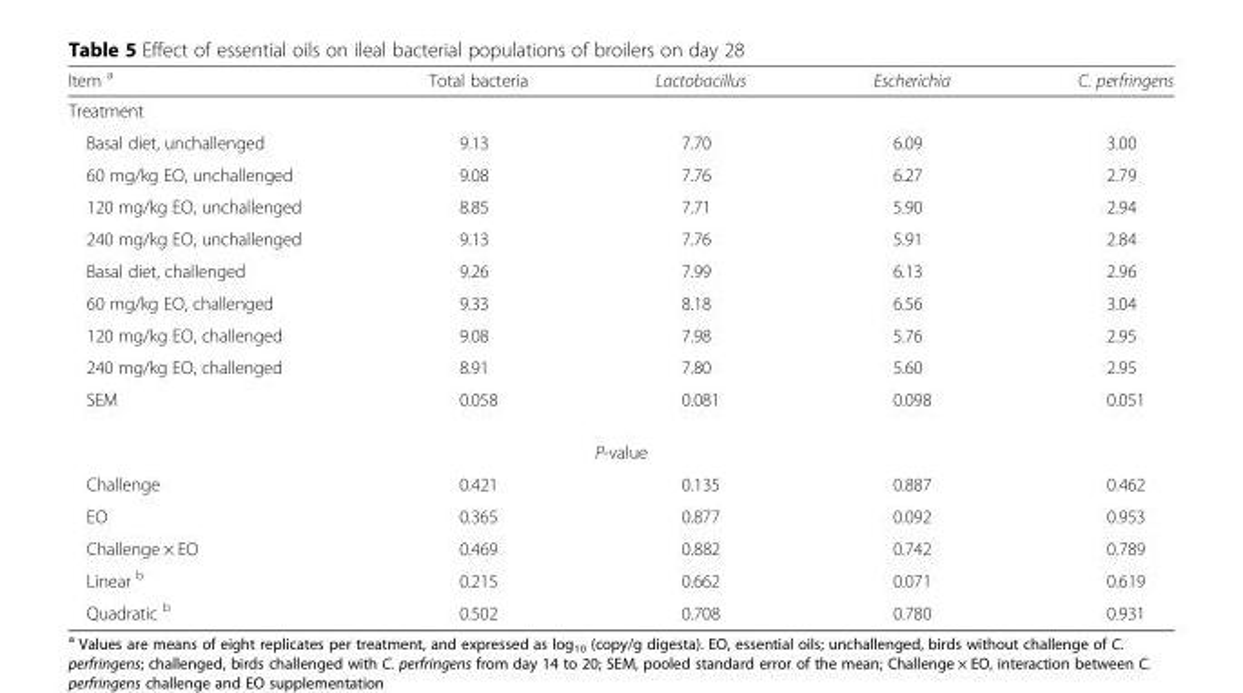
<table><thead><tr><td>Item <sup>a</sup></td><td>Total bacteria</td><td>Lactobacillus</td><td>Escherichia</td><td>C. perfringens</td></tr></thead><tbody><tr><td colspan="5">Treatment</td></tr><tr><td>Basal diet, unchallenged</td><td>9.13</td><td>7.70</td><td>6.09</td><td>3.00</td></tr><tr><td>60 mg/kg EO, unchallenged</td><td>9.08</td><td>7.76</td><td>6.27</td><td>2.79</td></tr><tr><td>120 mg/kg EO, unchallenged</td><td>8.85</td><td>7.71</td><td>5.90</td><td>2.94</td></tr><tr><td>240 mg/kg EO, unchallenged</td><td>9.13</td><td>7.76</td><td>5.91</td><td>2.84</td></tr><tr><td>Basal diet, challenged</td><td>9.26</td><td>7.99</td><td>6.13</td><td>2.96</td></tr><tr><td>60 mg/kg EO, challenged</td><td>9.33</td><td>8.18</td><td>6.56</td><td>3.04</td></tr><tr><td>120 mg/kg EO, challenged</td><td>9.08</td><td>7.98</td><td>5.76</td><td>2.95</td></tr><tr><td>240 mg/kg EO, challenged</td><td>8.91</td><td>7.80</td><td>5.60</td><td>2.95</td></tr><tr><td>SEM</td><td>0.058</td><td>0.081</td><td>0.098</td><td>0.051</td></tr><tr><td colspan="5">P-value</td></tr><tr><td>Challenge</td><td>0.421</td><td>0.135</td><td>0.887</td><td>0.462</td></tr><tr><td>EO</td><td>0.365</td><td>0.877</td><td>0.092</td><td>0.953</td></tr><tr><td>Challenge × EO</td><td>0.469</td><td>0.882</td><td>0.742</td><td>0.789</td></tr><tr><td>Linear <sup>b</sup></td><td>0.215</td><td>0.662</td><td>0.071</td><td>0.619</td></tr><tr><td>Quadratic <sup>b</sup></td><td>0.502</td><td>0.708</td><td>0.780</td><td>0.931</td></tr></tbody></table>